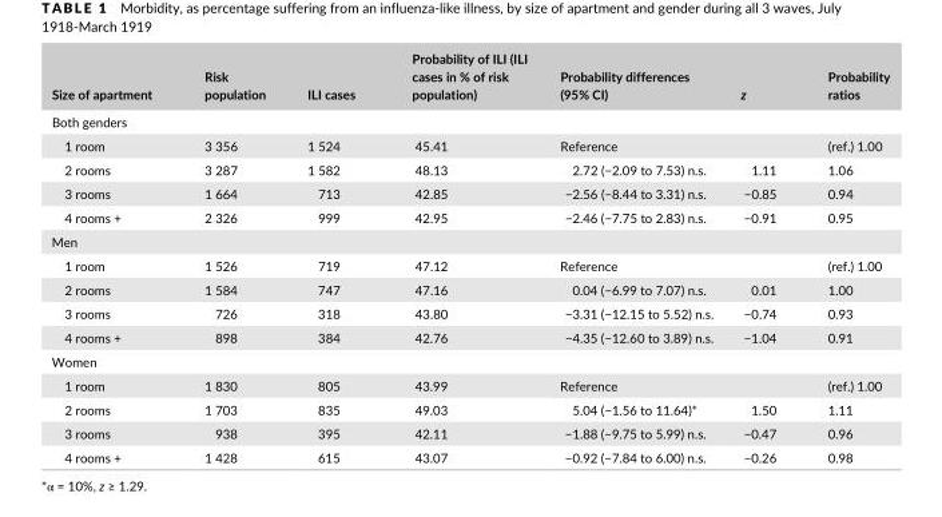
<table><thead><tr><td>Size of apartment</td><td>Risk population</td><td>ILI cases</td><td>Probability of ILI (ILI cases in % of risk population)</td><td>Probability differences (95% CI)</td><td>z</td><td>Probability ratios</td></tr></thead><tbody><tr><td colspan="7">Both genders</td></tr><tr><td>1 room</td><td>3 356</td><td>1 524</td><td>45.41</td><td>Reference</td><td></td><td>(ref.) 1.00</td></tr><tr><td>2 rooms</td><td>3 287</td><td>1 582</td><td>48.13</td><td>2.72 (−2.09 to 7.53) n.s.</td><td>1.11</td><td>1.06</td></tr><tr><td>3 rooms</td><td>1 664</td><td>713</td><td>42.85</td><td>−2.56 (−8.44 to 3.31) n.s.</td><td>−0.85</td><td>0.94</td></tr><tr><td>4 rooms +</td><td>2 326</td><td>999</td><td>42.95</td><td>−2.46 (−7.75 to 2.83) n.s.</td><td>−0.91</td><td>0.95</td></tr><tr><td colspan="7">Men</td></tr><tr><td>1 room</td><td>1 526</td><td>719</td><td>47.12</td><td>Reference</td><td></td><td>(ref.) 1.00</td></tr><tr><td>2 rooms</td><td>1 584</td><td>747</td><td>47.16</td><td>0.04 (−6.99 to 7.07) n.s.</td><td>0.01</td><td>1.00</td></tr><tr><td>3 rooms</td><td>726</td><td>318</td><td>43.80</td><td>−3.31 (−12.15 to 5.52) n.s.</td><td>−0.74</td><td>0.93</td></tr><tr><td>4 rooms +</td><td>898</td><td>384</td><td>42.76</td><td>−4.35 (−12.60 to 3.89) n.s.</td><td>−1.04</td><td>0.91</td></tr><tr><td colspan="7">Women</td></tr><tr><td>1 room</td><td>1 830</td><td>805</td><td>43.99</td><td>Reference</td><td></td><td>(ref.) 1.00</td></tr><tr><td>2 rooms</td><td>1 703</td><td>835</td><td>49.03</td><td>5.04 (−1.56 to 11.64)*</td><td>1.50</td><td>1.11</td></tr><tr><td>3 rooms</td><td>938</td><td>395</td><td>42.11</td><td>−1.88 (−9.75 to 5.99) n.s.</td><td>−0.47</td><td>0.96</td></tr><tr><td>4 rooms +</td><td>1 428</td><td>615</td><td>43.07</td><td>−0.92 (−7.84 to 6.00) n.s.</td><td>−0.26</td><td>0.98</td></tr></tbody></table>